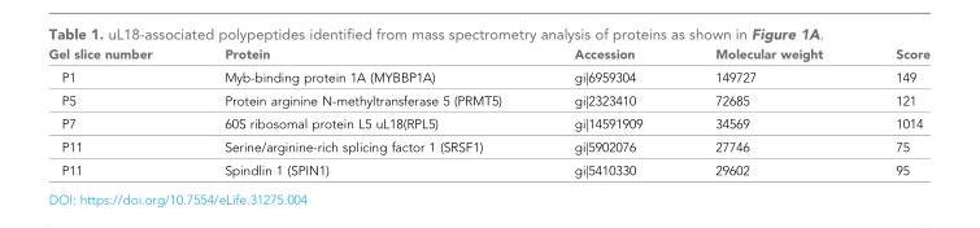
<table><thead><tr><td>Gel slice number</td><td>Protein</td><td>Accession</td><td>Molecular weight</td><td>Score</td></tr></thead><tbody><tr><td>P1</td><td>Myb-binding protein 1A (MYBBP1A)</td><td>gi|6959304</td><td>149727</td><td>149</td></tr><tr><td>P5</td><td>Protein arginine N-methyltransferase 5 (PRMT5)</td><td>gi|2323410</td><td>72685</td><td>121</td></tr><tr><td>P7</td><td>60S ribosomal protein L5 uL18(RPL5)</td><td>gi|14591909</td><td>34569</td><td>1014</td></tr><tr><td>P11</td><td>Serine/arginine-rich splicing factor 1 (SRSF1)</td><td>gi|5902076</td><td>27746</td><td>75</td></tr><tr><td>P11</td><td>Spindlin 1 (SPIN1)</td><td>gi|5410330</td><td>29602</td><td>95</td></tr></tbody></table>